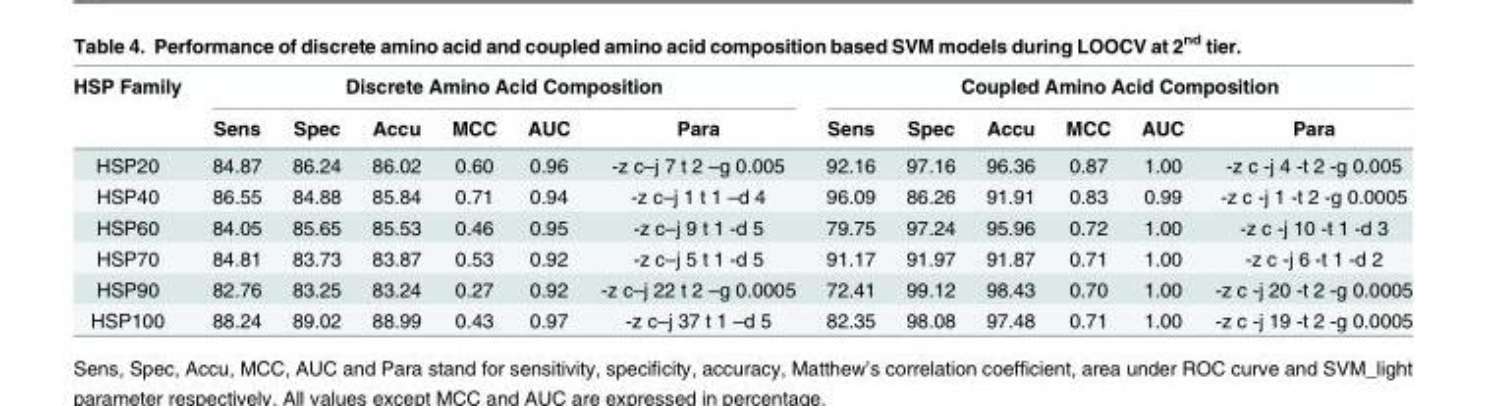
<table><thead><tr><td rowspan="2">HSP Family</td><td colspan="6">Discrete Amino Acid Composition</td><td colspan="6">Coupled Amino Acid Composition</td></tr><tr><td>Sens</td><td>Spec</td><td>Accu</td><td>MCC</td><td>AUC</td><td>Para</td><td>Sens</td><td>Spec</td><td>Accu</td><td>MCC</td><td>AUC</td><td>Para</td></tr></thead><tbody><tr><td>HSP20</td><td>84.87</td><td>86.24</td><td>86.02</td><td>0.60</td><td>0.96</td><td>-z c–j 7 t 2 –g 0.005</td><td>92.16</td><td>97.16</td><td>96.36</td><td>0.87</td><td>1.00</td><td>-z c -j 4 -t 2 -g 0.005</td></tr><tr><td>HSP40</td><td>86.55</td><td>84.88</td><td>85.84</td><td>0.71</td><td>0.94</td><td>-z c–j 1 t 1 –d 4</td><td>96.09</td><td>86.26</td><td>91.91</td><td>0.83</td><td>0.99</td><td>-z c -j 1 -t 2 -g 0.0005</td></tr><tr><td>HSP60</td><td>84.05</td><td>85.65</td><td>85.53</td><td>0.46</td><td>0.95</td><td>-z c–j 9 t 1 -d 5</td><td>79.75</td><td>97.24</td><td>95.96</td><td>0.72</td><td>1.00</td><td>-z c -j 10 -t 1 -d 3</td></tr><tr><td>HSP70</td><td>84.81</td><td>83.73</td><td>83.87</td><td>0.53</td><td>0.92</td><td>-z c–j 5 t 1 -d 5</td><td>91.17</td><td>91.97</td><td>91.87</td><td>0.71</td><td>1.00</td><td>-z c -j 6 -t 1 -d 2</td></tr><tr><td>HSP90</td><td>82.76</td><td>83.25</td><td>83.24</td><td>0.27</td><td>0.92</td><td>-z c–j 22 t 2 –g 0.0005</td><td>72.41</td><td>99.12</td><td>98.43</td><td>0.70</td><td>1.00</td><td>-z c -j 20 -t 2 -g 0.0005</td></tr><tr><td>HSP100</td><td>88.24</td><td>89.02</td><td>88.99</td><td>0.43</td><td>0.97</td><td>-z c–j 37 t 1 –d 5</td><td>82.35</td><td>98.08</td><td>97.48</td><td>0.71</td><td>1.00</td><td>-z c -j 19 -t 2 -g 0.0005</td></tr></tbody></table>